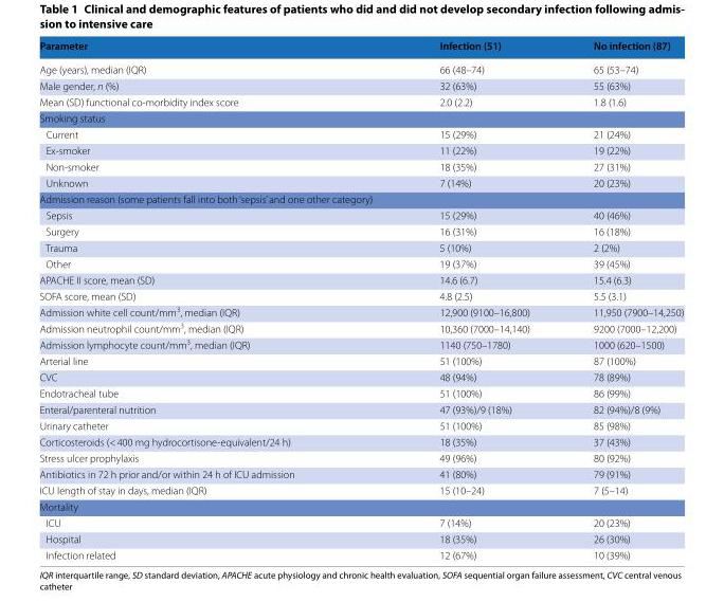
<table><thead><tr><td>Parameter</td><td>Infection (51)</td><td>No infection (87)</td></tr></thead><tbody><tr><td>Age (years), median (IQR)</td><td>66 (48–74)</td><td>65 (53–74)</td></tr><tr><td>Male gender, n (%)</td><td>32 (63%)</td><td>55 (63%)</td></tr><tr><td>Mean (SD) functional co‑morbidity index score</td><td>2.0 (2.2)</td><td>1.8 (1.6)</td></tr><tr><td colspan="3">Smoking status</td></tr><tr><td>Current</td><td>15 (29%)</td><td>21 (24%)</td></tr><tr><td>Ex‑smoker</td><td>11 (22%)</td><td>19 (22%)</td></tr><tr><td>Non‑smoker</td><td>18 (35%)</td><td>27 (31%)</td></tr><tr><td>Unknown</td><td>7 (14%)</td><td>20 (23%)</td></tr><tr><td colspan="3">Admission reason (some patients fall into both ‘sepsis’ and one other category)</td></tr><tr><td>Sepsis</td><td>15 (29%)</td><td>40 (46%)</td></tr><tr><td>Surgery</td><td>16 (31%)</td><td>16 (18%)</td></tr><tr><td>Trauma</td><td>5 (10%)</td><td>2 (2%)</td></tr><tr><td>Other</td><td>19 (37%)</td><td>39 (45%)</td></tr><tr><td>APACHE II score, mean (SD)</td><td>14.6 (6.7)</td><td>15.4 (6.3)</td></tr><tr><td>SOFA score, mean (SD)</td><td>4.8 (2.5)</td><td>5.5 (3.1)</td></tr><tr><td>Admission white cell count/mm<sup>3</sup>, median (IQR)</td><td>12,900 (9100–16,800)</td><td>11,950 (7900–14,250)</td></tr><tr><td>Admission neutrophil count/mm<sup>3</sup>, median (IQR)</td><td>10,360 (7000–14,140)</td><td>9200 (7000–12,200)</td></tr><tr><td>Admission lymphocyte count/mm<sup>3</sup>, median (IQR)</td><td>1140 (750–1780)</td><td>1000 (620–1500)</td></tr><tr><td>Arterial line</td><td>51 (100%)</td><td>87 (100%)</td></tr><tr><td>CVC</td><td>48 (94%)</td><td>78 (89%)</td></tr><tr><td>Endotracheal tube</td><td>51 (100%)</td><td>86 (99%)</td></tr><tr><td>Enteral/parenteral nutrition</td><td>47 (93%)/9 (18%)</td><td>82 (94%)/8 (9%)</td></tr><tr><td>Urinary catheter</td><td>51 (100%)</td><td>85 (98%)</td></tr><tr><td>Corticosteroids (&lt; 400 mg hydrocortisone‑equivalent/24 h)</td><td>18 (35%)</td><td>37 (43%)</td></tr><tr><td>Stress ulcer prophylaxis</td><td>49 (96%)</td><td>80 (92%)</td></tr><tr><td>Antibiotics in 72 h prior and/or within 24 h of ICU admission</td><td>41 (80%)</td><td>79 (91%)</td></tr><tr><td>ICU length of stay in days, median (IQR)</td><td>15 (10–24)</td><td>7 (5–14)</td></tr><tr><td colspan="3">Mortality</td></tr><tr><td>ICU</td><td>7 (14%)</td><td>20 (23%)</td></tr><tr><td>Hospital</td><td>18 (35%)</td><td>26 (30%)</td></tr><tr><td>Infection related</td><td>12 (67%)</td><td>10 (39%)</td></tr></tbody></table>